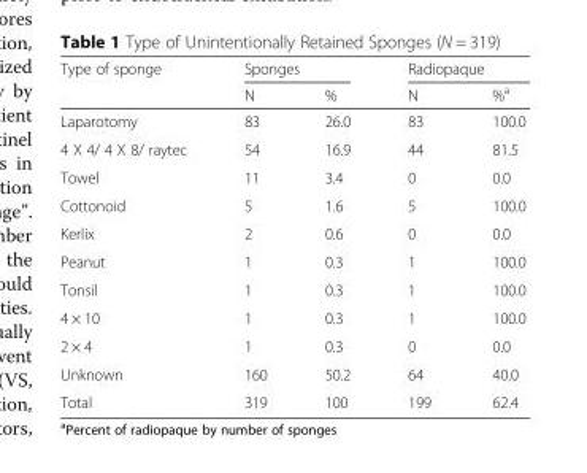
<table><thead><tr><td rowspan="2">Type of sponge</td><td colspan="2">Sponges</td><td colspan="2">Radiopaque</td></tr><tr><td>N</td><td>%</td><td>N</td><td>%<sup>a</sup></td></tr></thead><tbody><tr><td>Laparotomy</td><td>83</td><td>26.0</td><td>83</td><td>100.0</td></tr><tr><td>4 X 4/ 4 X 8/ raytec</td><td>54</td><td>16.9</td><td>44</td><td>81.5</td></tr><tr><td>Towel</td><td>11</td><td>3.4</td><td>0</td><td>0.0</td></tr><tr><td>Cottonoid</td><td>5</td><td>1.6</td><td>5</td><td>100.0</td></tr><tr><td>Kerlix</td><td>2</td><td>0.6</td><td>0</td><td>0.0</td></tr><tr><td>Peanut</td><td>1</td><td>0.3</td><td>1</td><td>100.0</td></tr><tr><td>Tonsil</td><td>1</td><td>0.3</td><td>1</td><td>100.0</td></tr><tr><td>4 × 10</td><td>1</td><td>0.3</td><td>1</td><td>100.0</td></tr><tr><td>2 × 4</td><td>1</td><td>0.3</td><td>0</td><td>0.0</td></tr><tr><td>Unknown</td><td>160</td><td>50.2</td><td>64</td><td>40.0</td></tr><tr><td>Total</td><td>319</td><td>100</td><td>199</td><td>62.4</td></tr></tbody></table>